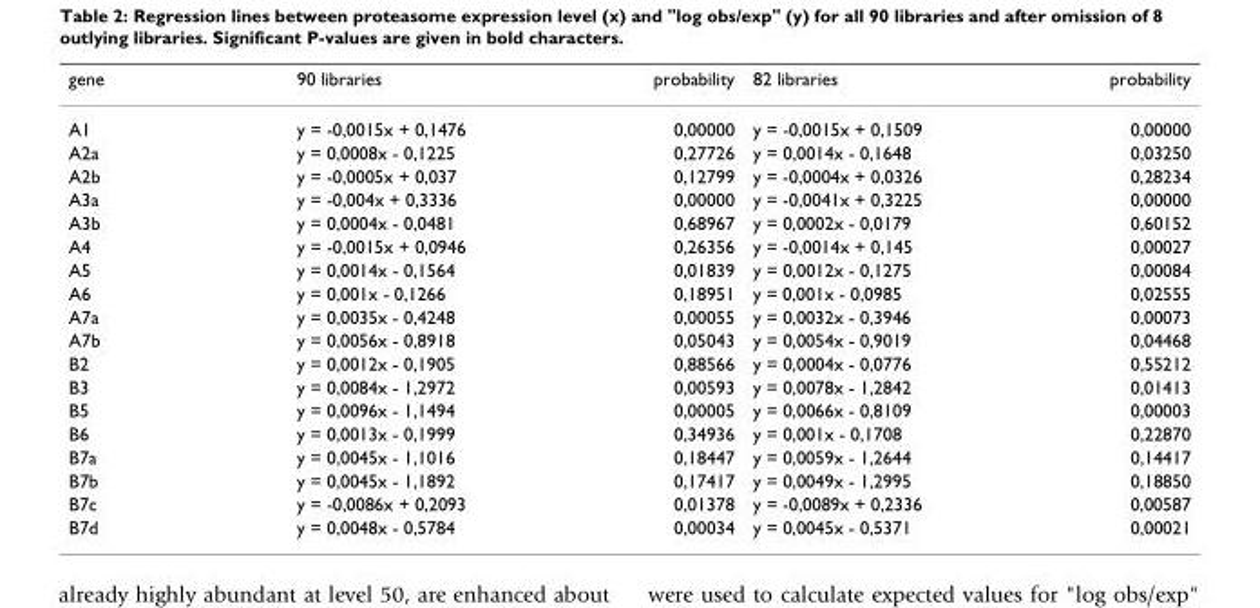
<table><thead><tr><td>gene</td><td>90 libraries</td><td>probability</td><td>82 libraries</td><td>probability</td></tr></thead><tbody><tr><td>A1</td><td>y = -0,0015x + 0,1476</td><td>0,00000</td><td>y = -0,0015x + 0,1509</td><td>0,00000</td></tr><tr><td>A2a</td><td>y = 0,0008x - 0,1225</td><td>0,27726</td><td>y = 0,0014x - 0,1648</td><td>0,03250</td></tr><tr><td>A2b</td><td>y = -0,0005x + 0,037</td><td>0,12799</td><td>y = -0,0004x + 0,0326</td><td>0,28234</td></tr><tr><td>A3a</td><td>y = -0,004x + 0,3336</td><td>0,00000</td><td>y = -0,0041x + 0,3225</td><td>0,00000</td></tr><tr><td>A3b</td><td>y = 0,0004x - 0,0481</td><td>0,68967</td><td>y = 0,0002x - 0,0179</td><td>0,60152</td></tr><tr><td>A4</td><td>y = -0,0015x + 0,0946</td><td>0,26356</td><td>y = -0,0014x + 0,145</td><td>0,00027</td></tr><tr><td>A5</td><td>y = 0,0014x - 0,1564</td><td>0,01839</td><td>y = 0,0012x - 0,1275</td><td>0,00084</td></tr><tr><td>A6</td><td>y = 0,001x - 0,1266</td><td>0,18951</td><td>y = 0,001x - 0,0985</td><td>0,02555</td></tr><tr><td>A7a</td><td>y = 0,0035x - 0,4248</td><td>0,00055</td><td>y = 0,0032x - 0,3946</td><td>0,00073</td></tr><tr><td>A7b</td><td>y = 0,0056x - 0,8918</td><td>0,05043</td><td>y = 0,0054x - 0,9019</td><td>0,04468</td></tr><tr><td>B2</td><td>y = 0,0012x - 0,1905</td><td>0,88566</td><td>y = 0,0004x - 0,0776</td><td>0,55212</td></tr><tr><td>B3</td><td>y = 0,0084x - 1,2972</td><td>0,00593</td><td>y = 0,0078x - 1,2842</td><td>0,01413</td></tr><tr><td>B5</td><td>y = 0,0096x - 1,1494</td><td>0,00005</td><td>y = 0,0066x - 0,8109</td><td>0,00003</td></tr><tr><td>B6</td><td>y = 0,0013x - 0,1999</td><td>0,34936</td><td>y = 0,001x - 0,1708</td><td>0,22870</td></tr><tr><td>B7a</td><td>y = 0,0045x - 1,1016</td><td>0,18447</td><td>y = 0,0059x - 1,2644</td><td>0,14417</td></tr><tr><td>B7b</td><td>y = 0,0045x - 1,1892</td><td>0,17417</td><td>y = 0,0049x - 1,2995</td><td>0,18850</td></tr><tr><td>B7c</td><td>y = -0,0086x + 0,2093</td><td>0,01378</td><td>y = -0,0089x + 0,2336</td><td>0,00587</td></tr><tr><td>B7d</td><td>y = 0,0048x - 0,5784</td><td>0,00034</td><td>y = 0,0045x - 0,5371</td><td>0,00021</td></tr></tbody></table>